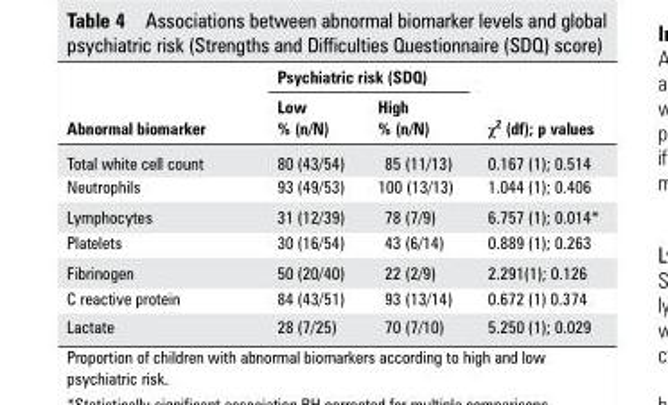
<table><thead><tr><td rowspan="2">Abnormal biomarker</td><td colspan="2">Psychiatric risk (sdQ)</td><td rowspan="2">χ<sup>2</sup> (df); p values</td></tr><tr><td>Low % (n/n)</td><td>high % (n/n)</td></tr></thead><tbody><tr><td>Total white cell count</td><td>80 (43/54)</td><td>85 (11/13)</td><td>0.167 (1); 0.514</td></tr><tr><td>Neutrophils</td><td>93 (49/53)</td><td>100 (13/13)</td><td>1.044 (1); 0.406</td></tr><tr><td>Lymphocytes</td><td>31 (12/39)</td><td>78 (7/9)</td><td>6.757 (1); 0.014*</td></tr><tr><td>Platelets</td><td>30 (16/54)</td><td>43 (6/14)</td><td>0.889 (1); 0.263</td></tr><tr><td>Fibrinogen</td><td>50 (20/40)</td><td>22 (2/9)</td><td>2.291(1); 0.126</td></tr><tr><td>C reactive protein</td><td>84 (43/51)</td><td>93 (13/14)</td><td>0.672 (1) 0.374</td></tr><tr><td>Lactate</td><td>28 (7/25)</td><td>70 (7/10)</td><td>5.250 (1); 0.029</td></tr></tbody></table>